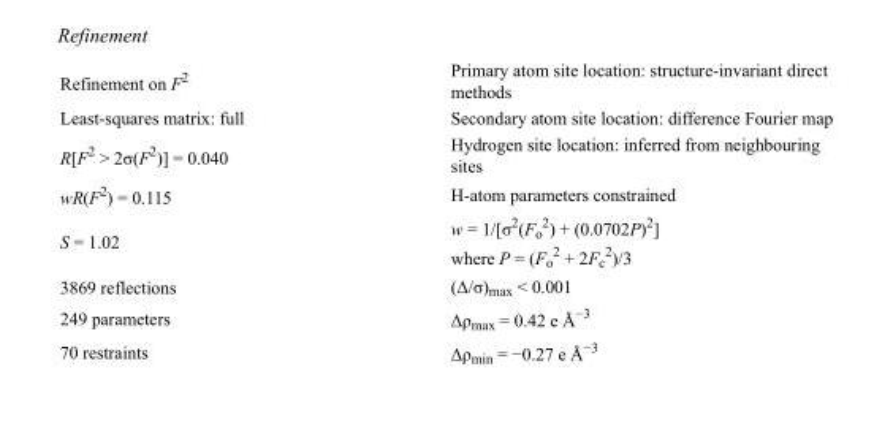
<table><tbody><tr><td>Refinement on F<sup>2</sup></td><td>Primary atom site location: structure-invariant direct methods</td></tr><tr><td>Least-squares matrix: full</td><td>Secondary atom site location: difference Fourier map</td></tr><tr><td>R[F<sup>2</sup> &gt; 2σ(F<sup>2</sup>)] = 0.040</td><td>Hydrogen site location: inferred from neighbouring sites</td></tr><tr><td>wR(F<sup>2</sup>) = 0.115</td><td>H-atom parameters constrained</td></tr><tr><td>S = 1.02</td><td>w = 1/[σ<sup>2</sup>(F<sub>o</sub> <sup>2</sup>) + (0.0702P)<sup>2</sup>] where P = (F<sub>o</sub> <sup>2</sup> + 2F<sub>c</sub> <sup>2</sup>)/3</td></tr><tr><td>3869 reflections</td><td>(Δ/σ)<sub>max</sub> &lt; 0.001</td></tr><tr><td>249 parameters</td><td>Δρ<sub>max</sub> = 0.42 e Å<sup>−3</sup></td></tr><tr><td>70 restraints</td><td>Δρ<sub>min</sub> = −0.27 e Å<sup>−3</sup></td></tr></tbody></table>